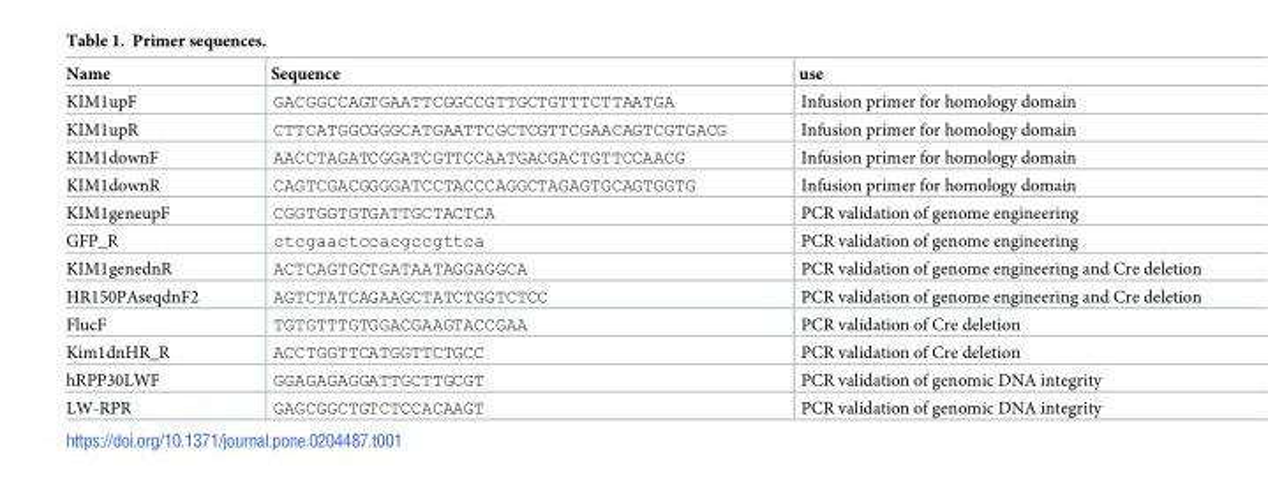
<table><thead><tr><td>Name</td><td>Sequence</td><td>use</td></tr></thead><tbody><tr><td>KIM1upF</td><td>GACGGCCAGTGAATTCGGCCGTTGCTGTTTCTTAATGA</td><td>Infusion primer for homology domain</td></tr><tr><td>KIM1upR</td><td>CTTCATGGCGGGCATGAATTCGCTCGTTCGAACAGTCGTGACG</td><td>Infusion primer for homology domain</td></tr><tr><td>KIM1downF</td><td>AACCTAGATCGGATCGTTCCAATGACGACTGTTCCAACG</td><td>Infusion primer for homology domain</td></tr><tr><td>KIM1downR</td><td>CAGTCGACGGGGATCCTACCCAGGCTAGAGTGCAGTGGTG</td><td>Infusion primer for homology domain</td></tr><tr><td>KIM1geneupF</td><td>CGGTGGTGTGATTGCTACTCA</td><td>PCR validation of genome engineering</td></tr><tr><td>GFP_R</td><td>ctcgaactccacgccgttca</td><td>PCR validation of genome engineering</td></tr><tr><td>KIM1genednR</td><td>ACTCAGTGCTGATAATAGGAGGCA</td><td>PCR validation of genome engineering and Cre deletion</td></tr><tr><td>HR150PAseqdnF2</td><td>AGTCTATCAGAAGCTATCTGGTCTCC</td><td>PCR validation of genome engineering and Cre deletion</td></tr><tr><td>FlucF</td><td>TGTGTTTGTGGACGAAGTACCGAA</td><td>PCR validation of Cre deletion</td></tr><tr><td>Kim1dnHR_R</td><td>ACCTGGTTCATGGTTCTGCC</td><td>PCR validation of Cre deletion</td></tr><tr><td>hRPP30LWF</td><td>GGAGAGAGGATTGCTTGCGT</td><td>PCR validation of genomic DNA integrity</td></tr><tr><td>LW-RPR</td><td>GAGCGGCTGTCTCCACAAGT</td><td>PCR validation of genomic DNA integrity</td></tr></tbody></table>